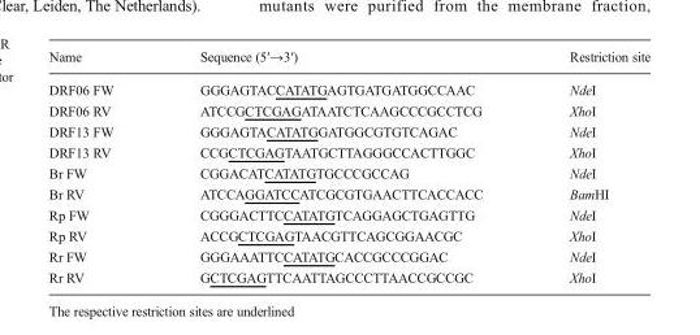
<table><thead><tr><td>Name</td><td>Sequence (5′→3′)</td><td>Restriction site</td></tr></thead><tbody><tr><td>DRF06 FW</td><td>GGGAGTACCATATGAGTGATGATGGCCAAC</td><td>NdeI</td></tr><tr><td>DRF06 RV</td><td>ATCCGCTCGAGATAATCTCAAGCCCGCCTCG</td><td>XhoI</td></tr><tr><td>DRF13 FW</td><td>GGGAGTACATATGGATGGCGTGTCAGAC</td><td>NdeI</td></tr><tr><td>DRF13 RV</td><td>CCGCTCGAGTAATGCTTAGGGCCACTTGGC</td><td>XhoI</td></tr><tr><td>Br FW</td><td>CGGACATCATATGTGCCCGCCAG</td><td>NdeI</td></tr><tr><td>Br RV</td><td>ATCCAGGATCCATCGCGTGAACTTCACCACC</td><td>BamHI</td></tr><tr><td>Rp FW</td><td>CGGGACTTCCATATGTCAGGAGCTGAGTTG</td><td>NdeI</td></tr><tr><td>Rp RV</td><td>ACCGCTCGAGTAACGTTCAGCGGAACGC</td><td>XhoI</td></tr><tr><td>Rr FW</td><td>GGGAAATTCCATATGCACCGCCCGGAC</td><td>NdeI</td></tr><tr><td>Rr RV</td><td>GCTCGAGTTCAATTAGCCCTTAACCGCCGC</td><td>XhoI</td></tr></tbody></table>